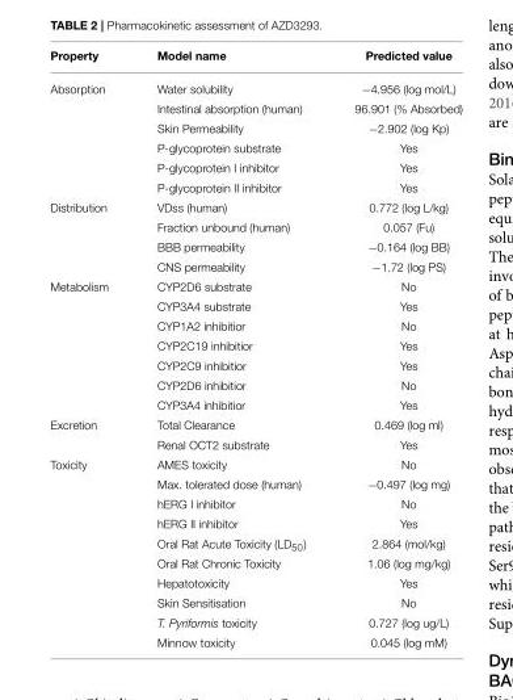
<table><thead><tr><td>Property</td><td>Model name</td><td>Predicted value</td></tr></thead><tbody><tr><td rowspan="6">Absorption</td><td>Water solubility</td><td>−4.956 (log mol/L)</td></tr><tr><td>Intestinal absorption (human)</td><td>96.901 (% Absorbed)</td></tr><tr><td>Skin Permeability</td><td>−2.902 (log Kp)</td></tr><tr><td>P-glycoprotein substrate</td><td>Yes</td></tr><tr><td>P-glycoprotein I inhibitor</td><td>Yes</td></tr><tr><td>P-glycoprotein II inhibitor</td><td>Yes</td></tr><tr><td rowspan="4">Distribution</td><td>VDss (human)</td><td>0.772 (log L/kg)</td></tr><tr><td>Fraction unbound (human)</td><td>0.057 (Fu)</td></tr><tr><td>BBB permeability</td><td>−0.164 (log BB)</td></tr><tr><td>CNS permeability</td><td>−1.72 (log PS)</td></tr><tr><td rowspan="7">Metabolism</td><td>CYP2D6 substrate</td><td>No</td></tr><tr><td>CYP3A4 substrate</td><td>Yes</td></tr><tr><td>CYP1A2 inhibitior</td><td>No</td></tr><tr><td>CYP2C19 inhibitior</td><td>Yes</td></tr><tr><td>CYP2C9 inhibitior</td><td>Yes</td></tr><tr><td>CYP2D6 inhibitior</td><td>No</td></tr><tr><td>CYP3A4 inhibitior</td><td>Yes</td></tr><tr><td rowspan="2">Excretion</td><td>Total Clearance</td><td>0.469 (log ml)</td></tr><tr><td>Renal OCT2 substrate</td><td>Yes</td></tr><tr><td rowspan="10">Toxicity</td><td>AMES toxicity</td><td>No</td></tr><tr><td>Max. tolerated dose (human)</td><td>−0.497 (log mg)</td></tr><tr><td>hERG I inhibitor</td><td>No</td></tr><tr><td>hERG II inhibitor</td><td>Yes</td></tr><tr><td>Oral Rat Acute Toxicity (LD<sub>50</sub>)</td><td>2.864 (mol/kg)</td></tr><tr><td>Oral Rat Chronic Toxicity</td><td>1.06 (log mg/kg)</td></tr><tr><td>Hepatotoxicity</td><td>Yes</td></tr><tr><td>Skin Sensitisation</td><td>No</td></tr><tr><td>T. Pyriformis toxicity</td><td>0.727 (log ug/L)</td></tr><tr><td>Minnow toxicity</td><td>0.045 (log mM)</td></tr></tbody></table>